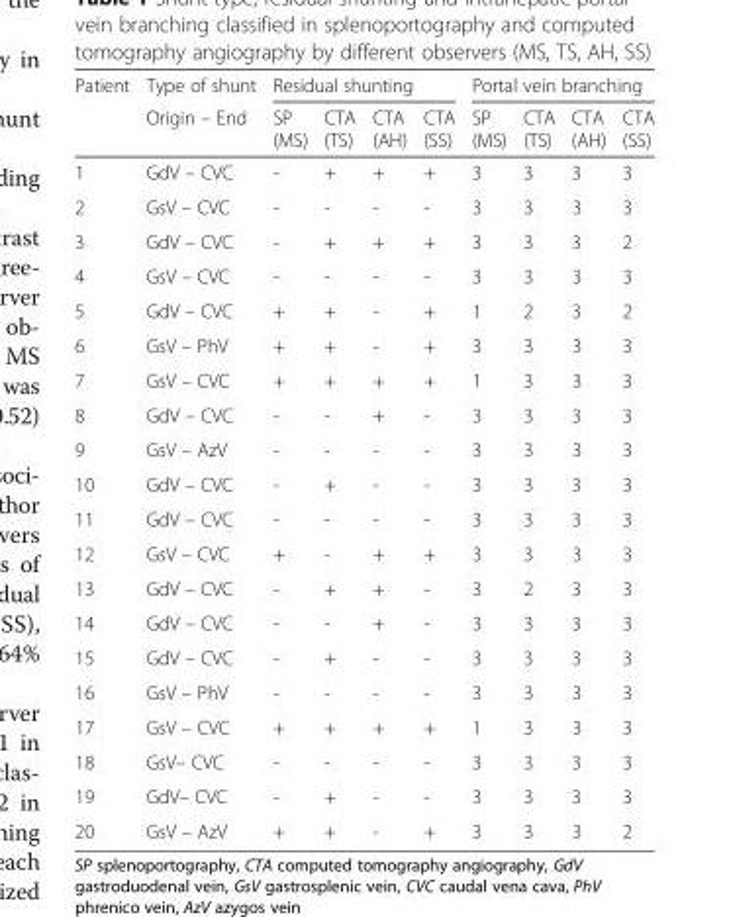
<table><thead><tr><td rowspan="2">Patient</td><td rowspan="2">Type of shunt Origin – End</td><td colspan="4">Residual shunting</td><td colspan="4">Portal vein branching</td></tr><tr><td>SP (MS)</td><td>CTA (TS)</td><td>CTA (AH)</td><td>CTA (SS)</td><td>SP (MS)</td><td>CTA (TS)</td><td>CTA (AH)</td><td>CTA (SS)</td></tr></thead><tbody><tr><td>1</td><td>GdV – CVC</td><td>-</td><td>+</td><td>+</td><td>+</td><td>3</td><td>3</td><td>3</td><td>3</td></tr><tr><td>2</td><td>GsV – CVC</td><td>-</td><td>-</td><td>-</td><td>-</td><td>3</td><td>3</td><td>3</td><td>3</td></tr><tr><td>3</td><td>GdV – CVC</td><td>-</td><td>+</td><td>+</td><td>+</td><td>3</td><td>3</td><td>3</td><td>2</td></tr><tr><td>4</td><td>GsV – CVC</td><td>-</td><td>-</td><td>-</td><td>-</td><td>3</td><td>3</td><td>3</td><td>3</td></tr><tr><td>5</td><td>GdV – CVC</td><td>+</td><td>+</td><td>-</td><td>+</td><td>1</td><td>2</td><td>3</td><td>2</td></tr><tr><td>6</td><td>GsV – PhV</td><td>+</td><td>+</td><td>-</td><td>+</td><td>3</td><td>3</td><td>3</td><td>3</td></tr><tr><td>7</td><td>GsV – CVC</td><td>+</td><td>+</td><td>+</td><td>+</td><td>1</td><td>3</td><td>3</td><td>3</td></tr><tr><td>8</td><td>GdV – CVC</td><td>-</td><td>-</td><td>+</td><td>-</td><td>3</td><td>3</td><td>3</td><td>3</td></tr><tr><td>9</td><td>GsV – AzV</td><td>-</td><td>-</td><td>-</td><td>-</td><td>3</td><td>3</td><td>3</td><td>3</td></tr><tr><td>10</td><td>GdV – CVC</td><td>-</td><td>+</td><td>-</td><td>-</td><td>3</td><td>3</td><td>3</td><td>3</td></tr><tr><td>11</td><td>GdV – CVC</td><td>-</td><td>-</td><td>-</td><td>-</td><td>3</td><td>3</td><td>3</td><td>3</td></tr><tr><td>12</td><td>GsV – CVC</td><td>+</td><td>-</td><td>+</td><td>+</td><td>3</td><td>3</td><td>3</td><td>3</td></tr><tr><td>13</td><td>GdV – CVC</td><td>-</td><td>+</td><td>+</td><td>-</td><td>3</td><td>2</td><td>3</td><td>3</td></tr><tr><td>14</td><td>GdV – CVC</td><td>-</td><td>-</td><td>+</td><td>-</td><td>3</td><td>3</td><td>3</td><td>3</td></tr><tr><td>15</td><td>GdV – CVC</td><td>-</td><td>+</td><td>-</td><td>-</td><td>3</td><td>3</td><td>3</td><td>3</td></tr><tr><td>16</td><td>GsV – PhV</td><td>-</td><td>-</td><td>-</td><td>-</td><td>3</td><td>3</td><td>3</td><td>3</td></tr><tr><td>17</td><td>GsV – CVC</td><td>+</td><td>+</td><td>+</td><td>+</td><td>1</td><td>3</td><td>3</td><td>3</td></tr><tr><td>18</td><td>GsV– CVC</td><td>-</td><td>-</td><td>-</td><td>-</td><td>3</td><td>3</td><td>3</td><td>3</td></tr><tr><td>19</td><td>GdV– CVC</td><td>-</td><td>+</td><td>-</td><td>-</td><td>3</td><td>3</td><td>3</td><td>3</td></tr><tr><td>20</td><td>GsV – AzV</td><td>+</td><td>+</td><td>-</td><td>+</td><td>3</td><td>3</td><td>3</td><td>2</td></tr></tbody></table>